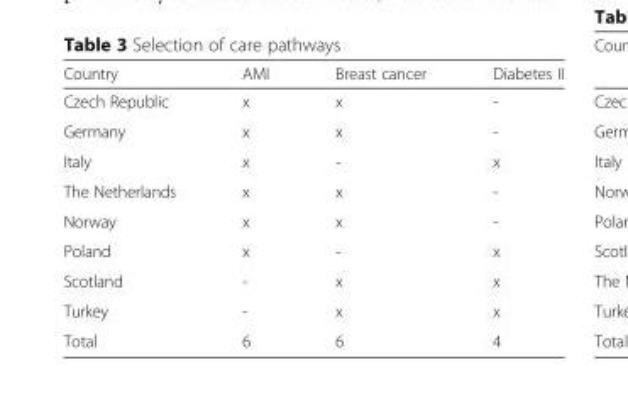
<table><thead><tr><td>Country</td><td>AMI</td><td>Breast cancer</td><td>Diabetes II</td></tr></thead><tbody><tr><td>Czech Republic</td><td>x</td><td>x</td><td>-</td></tr><tr><td>Germany</td><td>x</td><td>x</td><td>-</td></tr><tr><td>Italy</td><td>x</td><td>-</td><td>x</td></tr><tr><td>The Netherlands</td><td>x</td><td>x</td><td>-</td></tr><tr><td>Norway</td><td>x</td><td>x</td><td>-</td></tr><tr><td>Poland</td><td>x</td><td>-</td><td>x</td></tr><tr><td>Scotland</td><td>-</td><td>x</td><td>x</td></tr><tr><td>Turkey</td><td>-</td><td>x</td><td>x</td></tr><tr><td>Total</td><td>6</td><td>6</td><td>4</td></tr></tbody></table>